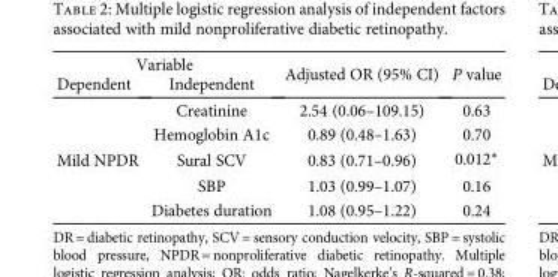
<table><thead><tr><td colspan="2">Variable</td><td rowspan="2">Adjusted OR (95% CI)</td><td rowspan="2">P value</td></tr><tr><td>Dependent</td><td>Independent</td></tr></thead><tbody><tr><td rowspan="5">Mild NPDR</td><td>Creatinine</td><td>2.54 (0.06–109.15)</td><td>0.63</td></tr><tr><td>Hemoglobin A1c</td><td>0.89 (0.48–1.63)</td><td>0.70</td></tr><tr><td>Sural SCV</td><td>0.83 (0.71–0.96)</td><td>0.012∗</td></tr><tr><td>SBP</td><td>1.03 (0.99–1.07)</td><td>0.16</td></tr><tr><td>Diabetes duration</td><td>1.08 (0.95–1.22)</td><td>0.24</td></tr></tbody></table>